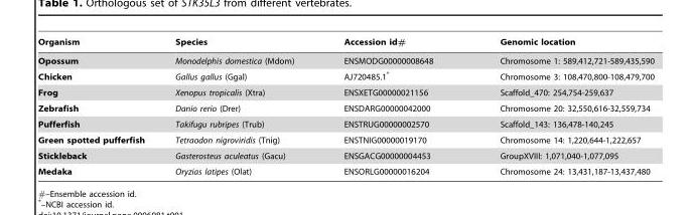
<table><thead><tr><td>Organism</td><td>Species</td><td>Accession id#</td><td>Genomic location</td></tr></thead><tbody><tr><td>Opossum</td><td>Monodelphis domestica (Mdom)</td><td>ENSMODG00000008648</td><td>Chromosome 1: 589,412,721-589,435,590</td></tr><tr><td>Chicken</td><td>Gallus gallus (Ggal)</td><td>AJ720485.1*</td><td>Chromosome 3: 108,470,800-108,479,700</td></tr><tr><td>Frog</td><td>Xenopus tropicalis (Xtra)</td><td>ENSXETG00000021156</td><td>Scaffold_470: 254,754-259,637</td></tr><tr><td>Zebrafish</td><td>Danio rerio (Drer)</td><td>ENSDARG00000042000</td><td>Chromosome 20: 32,550,616-32,559,734</td></tr><tr><td>Pufferfish</td><td>Takifugu rubripes (Trub)</td><td>ENSTRUG00000002570</td><td>Scaffold_143: 136,478-140,245</td></tr><tr><td>Green spotted pufferfish</td><td>Tetraodon nigroviridis (Tnig)</td><td>ENSTNIG00000019170</td><td>Chromosome 14: 1,220,644-1,222,657</td></tr><tr><td>Stickleback</td><td>Gasterosteus aculeatus (Gacu)</td><td>ENSGACG00000004453</td><td>GroupXVIII: 1,071,040-1,077,095</td></tr><tr><td>Medaka</td><td>Oryzias latipes (Olat)</td><td>ENSORLG00000016204</td><td>Chromosome 24: 13,431,187-13,437,480</td></tr></tbody></table>